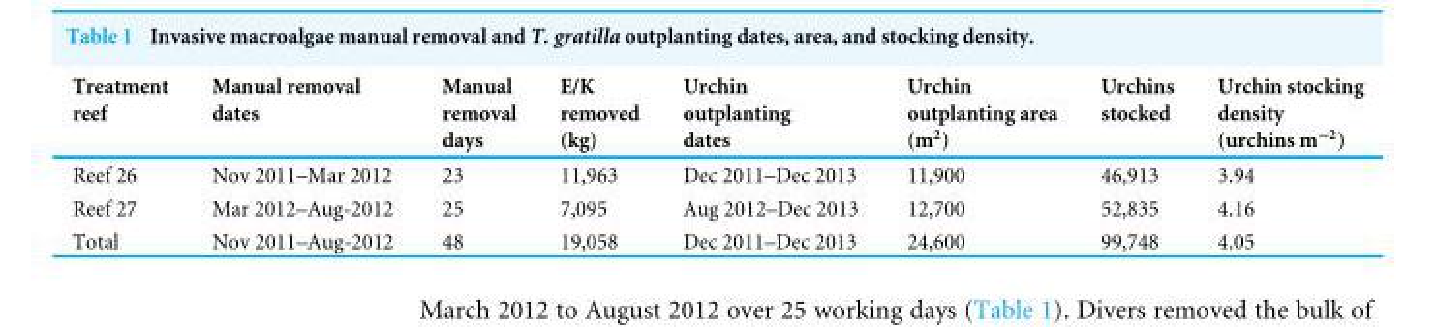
<table><thead><tr><td>Treatment reef</td><td>Manual removal dates</td><td>Manual removal days</td><td>E/K removed (kg)</td><td>Urchin outplanting dates</td><td>Urchin outplanting area (m<sup>2</sup>)</td><td>Urchins stocked</td><td>Urchin stocking density (urchins m<sup>−2</sup>)</td></tr></thead><tbody><tr><td>Reef 26</td><td>Nov 2011–Mar 2012</td><td>23</td><td>11,963</td><td>Dec 2011–Dec 2013</td><td>11,900</td><td>46,913</td><td>3.94</td></tr><tr><td>Reef 27</td><td>Mar 2012–Aug-2012</td><td>25</td><td>7,095</td><td>Aug 2012–Dec 2013</td><td>12,700</td><td>52,835</td><td>4.16</td></tr><tr><td>Total</td><td>Nov 2011–Aug-2012</td><td>48</td><td>19,058</td><td>Dec 2011–Dec 2013</td><td>24,600</td><td>99,748</td><td>4.05</td></tr></tbody></table>